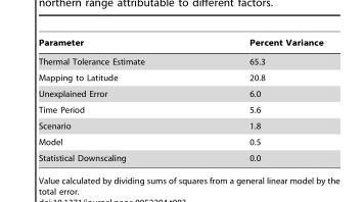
<table><thead><tr><td>Parameter</td><td>Percent Variance</td></tr></thead><tbody><tr><td>Thermal Tolerance Estimate</td><td>65.3</td></tr><tr><td>Mapping to Latitude</td><td>20.8</td></tr><tr><td>Unexplained Error</td><td>6.0</td></tr><tr><td>Time Period</td><td>5.6</td></tr><tr><td>Scenario</td><td>1.8</td></tr><tr><td>Model</td><td>0.5</td></tr><tr><td>Statistical Downscaling</td><td>0.0</td></tr></tbody></table>